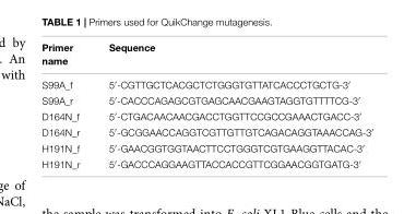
<table><thead><tr><td>Primer name</td><td>Sequence</td></tr></thead><tbody><tr><td>S99A_f</td><td>5′-CGTTGCTCACGCTCTGGGTGTTATCACCCTGCTG-3′</td></tr><tr><td>S99A_r</td><td>5′-CACCCAGAGCGTGAGCAACGAAGTAGGTGTTTTCG-3′</td></tr><tr><td>D164N_f</td><td>5′-CTGACAACAACGACCTGGTTCCGCCGAAACTGACC-3′</td></tr><tr><td>D164N_r</td><td>5′-GCGGAACCAGGTCGTTGTTGTCAGACAGGTAAACCAG-3′</td></tr><tr><td>H191N_f</td><td>5′-GAACGGTGGTAACTTCCTGGGTCGTGAAGGTTACAC-3′</td></tr><tr><td>H191N_r</td><td>5′-GACCCAGGAAGTTACCACCGTTCGGAACGGTGATG-3′</td></tr></tbody></table>